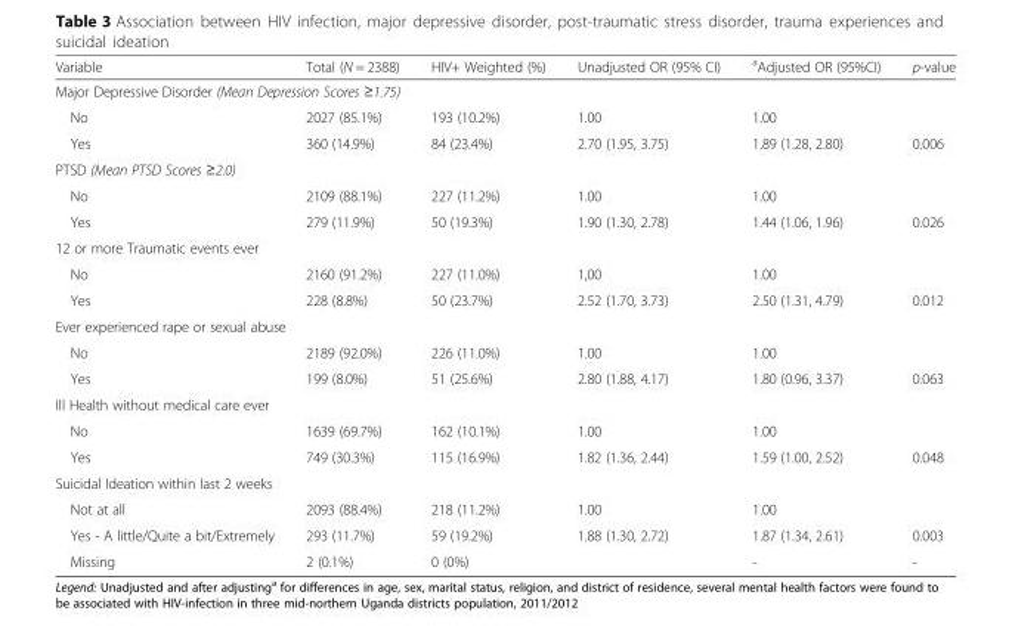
<table><thead><tr><td>Variable</td><td>Total (N = 2388)</td><td>HIV+ Weighted (%)</td><td>Unadjusted OR (95% CI)</td><td><sup>a</sup>Adjusted OR (95%CI)</td><td>p-value</td></tr></thead><tbody><tr><td colspan="6">Major Depressive Disorder (Mean Depression Scores ≥1.75)</td></tr><tr><td>No</td><td>2027 (85.1%)</td><td>193 (10.2%)</td><td>1.00</td><td>1.00</td><td></td></tr><tr><td>Yes</td><td>360 (14.9%)</td><td>84 (23.4%)</td><td>2.70 (1.95, 3.75)</td><td>1.89 (1.28, 2.80)</td><td>0.006</td></tr><tr><td colspan="6">PTSD (Mean PTSD Scores ≥2.0)</td></tr><tr><td>No</td><td>2109 (88.1%)</td><td>227 (11.2%)</td><td>1.00</td><td>1.00</td><td></td></tr><tr><td>Yes</td><td>279 (11.9%)</td><td>50 (19.3%)</td><td>1.90 (1.30, 2.78)</td><td>1.44 (1.06, 1.96)</td><td>0.026</td></tr><tr><td colspan="6">12 or more Traumatic events ever</td></tr><tr><td>No</td><td>2160 (91.2%)</td><td>227 (11.0%)</td><td>1,00</td><td>1.00</td><td></td></tr><tr><td>Yes</td><td>228 (8.8%)</td><td>50 (23.7%)</td><td>2.52 (1.70, 3.73)</td><td>2.50 (1.31, 4.79)</td><td>0.012</td></tr><tr><td colspan="6">Ever experienced rape or sexual abuse</td></tr><tr><td>No</td><td>2189 (92.0%)</td><td>226 (11.0%)</td><td>1.00</td><td>1.00</td><td></td></tr><tr><td>Yes</td><td>199 (8.0%)</td><td>51 (25.6%)</td><td>2.80 (1.88, 4.17)</td><td>1.80 (0.96, 3.37)</td><td>0.063</td></tr><tr><td colspan="6">Ill Health without medical care ever</td></tr><tr><td>No</td><td>1639 (69.7%)</td><td>162 (10.1%)</td><td>1.00</td><td>1.00</td><td></td></tr><tr><td>Yes</td><td>749 (30.3%)</td><td>115 (16.9%)</td><td>1.82 (1.36, 2.44)</td><td>1.59 (1.00, 2.52)</td><td>0.048</td></tr><tr><td colspan="6">Suicidal Ideation within last 2 weeks</td></tr><tr><td>Not at all</td><td>2093 (88.4%)</td><td>218 (11.2%)</td><td>1.00</td><td>1.00</td><td></td></tr><tr><td>Yes - A little/Quite a bit/Extremely</td><td>293 (11.7%)</td><td>59 (19.2%)</td><td>1.88 (1.30, 2.72)</td><td>1.87 (1.34, 2.61)</td><td>0.003</td></tr><tr><td>Missing</td><td>2 (0.1%)</td><td>0 (0%)</td><td></td><td>-</td><td>-</td></tr></tbody></table>